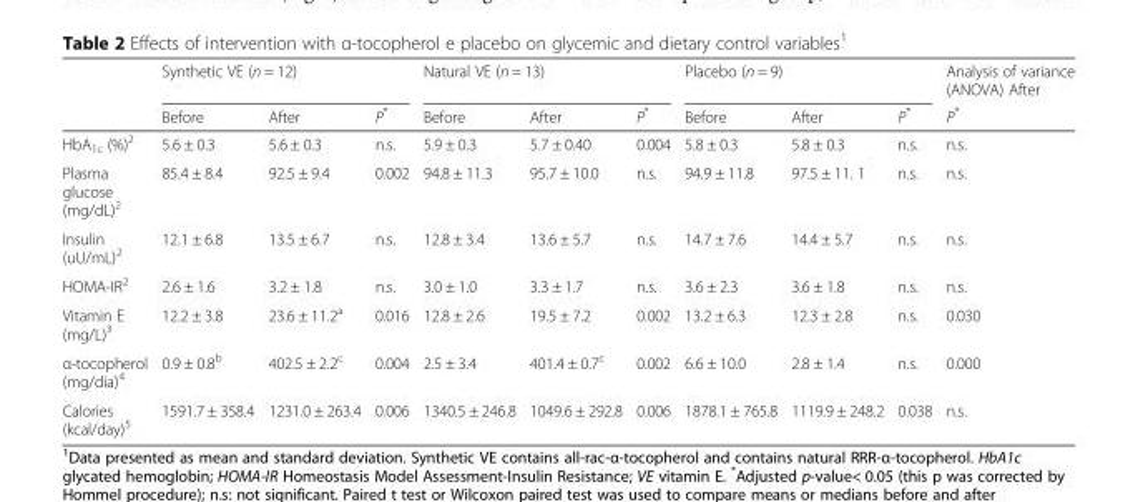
<table><thead><tr><td rowspan="2"></td><td colspan="3">Synthetic VE (n = 12)</td><td colspan="3">Natural VE (n = 13)</td><td colspan="3">Placebo (n = 9)</td><td rowspan="2">Analysis of variance (ANOVA) After P*</td></tr><tr><td>Before</td><td>After</td><td>P*</td><td>Before</td><td>After</td><td>P*</td><td>Before</td><td>After</td><td>P*</td></tr></thead><tbody><tr><td>HbA<sub>1c</sub> (%)<sup>2</sup></td><td>5.6 ± 0.3</td><td>5.6 ± 0.3</td><td>n.s.</td><td>5.9 ± 0.3</td><td>5.7 ± 0.40</td><td>0.004</td><td>5.8 ± 0.3</td><td>5.8 ± 0.3</td><td>n.s.</td><td>n.s.</td></tr><tr><td>Plasma glucose (mg/dL)<sup>2</sup></td><td>85.4 ± 8.4</td><td>92.5 ± 9.4</td><td>0.002</td><td>94.8 ± 11.3</td><td>95.7 ± 10.0</td><td>n.s.</td><td>94.9 ± 11.8</td><td>97.5 ± 11. 1</td><td>n.s.</td><td>n.s.</td></tr><tr><td>Insulin (uU/mL)<sup>2</sup></td><td>12.1 ± 6.8</td><td>13.5 ± 6.7</td><td>n.s.</td><td>12.8 ± 3.4</td><td>13.6 ± 5.7</td><td>n.s.</td><td>14.7 ± 7.6</td><td>14.4 ± 5.7</td><td>n.s.</td><td>n.s.</td></tr><tr><td>HOMA-IR<sup>2</sup></td><td>2.6 ± 1.6</td><td>3.2 ± 1.8</td><td>n.s.</td><td>3.0 ± 1.0</td><td>3.3 ± 1.7</td><td>n.s.</td><td>3.6 ± 2.3</td><td>3.6 ± 1.8</td><td>n.s.</td><td>n.s.</td></tr><tr><td>Vitamin E (mg/L)<sup>3</sup></td><td>12.2 ± 3.8</td><td>23.6 ± 11.2<sup>a</sup></td><td>0.016</td><td>12.8 ± 2.6</td><td>19.5 ± 7.2</td><td>0.002</td><td>13.2 ± 6.3</td><td>12.3 ± 2.8</td><td>n.s.</td><td>0.030</td></tr><tr><td>α-tocopherol (mg/dia)<sup>4</sup></td><td>0.9 ± 0.8<sup>b</sup></td><td>402.5 ± 2.2<sup>c</sup></td><td>0.004</td><td>2.5 ± 3.4</td><td>401.4 ± 0.7<sup>c</sup></td><td>0.002</td><td>6.6 ± 10.0</td><td>2.8 ± 1.4</td><td>n.s.</td><td>0.000</td></tr><tr><td>Calories (kcal/day)<sup>5</sup></td><td>1591.7 ± 358.4</td><td>1231.0 ± 263.4</td><td>0.006</td><td>1340.5 ± 246.8</td><td>1049.6 ± 292.8</td><td>0.006</td><td>1878.1 ± 765.8</td><td>1119.9 ± 248.2</td><td>0.038</td><td>n.s.</td></tr></tbody></table>